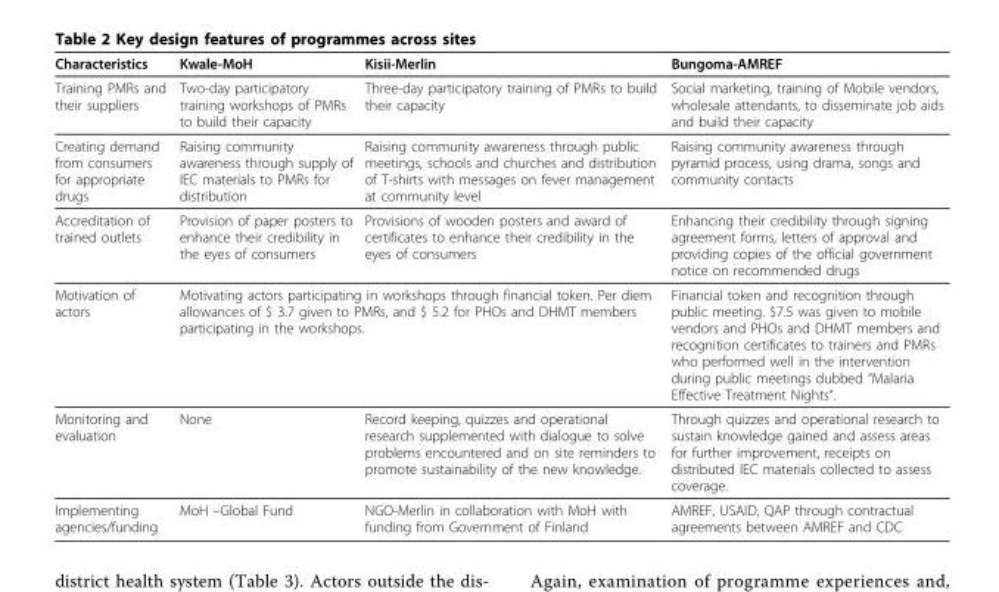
<table><thead><tr><td>Characteristics</td><td>Kwale-MoH</td><td>Kisii-Merlin</td><td>Bungoma-AMREF</td></tr></thead><tbody><tr><td>Training PMRs and their suppliers</td><td>Two-day participatory training workshops of PMRs to build their capacity</td><td>Three-day participatory training of PMRs to build their capacity</td><td>Social marketing, training of Mobile vendors, wholesale attendants, to disseminate job aids and build their capacity</td></tr><tr><td>Creating demand from consumers for appropriate drugs</td><td>Raising community awareness through supply of IEC materials to PMRs for distribution</td><td>Raising community awareness through public meetings, schools and churches and distribution of T-shirts with messages on fever management at community level</td><td>Raising community awareness through pyramid process, using drama, songs and community contacts</td></tr><tr><td>Accreditation of trained outlets</td><td>Provision of paper posters to enhance their credibility in the eyes of consumers</td><td>Provisions of wooden posters and award of certificates to enhance their credibility in the eyes of consumers</td><td>Enhancing their credibility through signing agreement forms, letters of approval and providing copies of the official government notice on recommended drugs</td></tr><tr><td>Motivation of actors</td><td colspan="2">Motivating actors participating in workshops through financial token. Per diem allowances of $ 3.7 given to PMRs, and $ 5.2 for PHOs and DHMT members participating in the workshops.</td><td>Financial token and recognition through public meeting. $7.5 was given to mobile vendors and PHOs and DHMT members and recognition certificates to trainers and PMRs who performed well in the intervention during public meetings dubbed “Malaria Effective Treatment Nights”.</td></tr><tr><td>Monitoring and evaluation</td><td>None</td><td>Record keeping, quizzes and operational research supplemented with dialogue to solve problems encountered and on site reminders to promote sustainability of the new knowledge.</td><td>Through quizzes and operational research to sustain knowledge gained and assess areas for further improvement, receipts on distributed IEC materials collected to assess coverage.</td></tr><tr><td>Implementing agencies/funding</td><td>MoH –Global Fund</td><td>NGO-Merlin in collaboration with MoH with funding from Government of Finland</td><td>AMREF, USAID, QAP through contractual agreements between AMREF and CDC</td></tr></tbody></table>